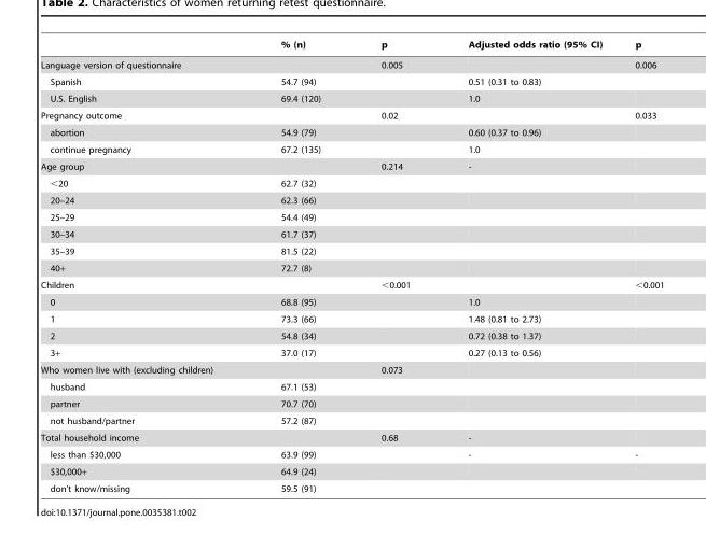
<table><thead><tr><td></td><td>% (n)</td><td>p</td><td>Adjusted odds ratio (95% CI)</td><td>p</td></tr></thead><tbody><tr><td>Language version of questionnaire</td><td></td><td>0.005</td><td></td><td>0.006</td></tr><tr><td>Spanish</td><td>54.7 (94)</td><td></td><td>0.51 (0.31 to 0.83)</td><td></td></tr><tr><td>U.S. English</td><td>69.4 (120)</td><td></td><td>1.0</td><td></td></tr><tr><td>Pregnancy outcome</td><td></td><td>0.02</td><td></td><td>0.033</td></tr><tr><td>abortion</td><td>54.9 (79)</td><td></td><td>0.60 (0.37 to 0.96)</td><td></td></tr><tr><td>continue pregnancy</td><td>67.2 (135)</td><td></td><td>1.0</td><td></td></tr><tr><td>Age group</td><td></td><td>0.214</td><td>-</td><td></td></tr><tr><td>&lt;20</td><td>62.7 (32)</td><td></td><td></td><td></td></tr><tr><td>20–24</td><td>62.3 (66)</td><td></td><td></td><td></td></tr><tr><td>25–29</td><td>54.4 (49)</td><td></td><td></td><td></td></tr><tr><td>30–34</td><td>61.7 (37)</td><td></td><td></td><td></td></tr><tr><td>35–39</td><td>81.5 (22)</td><td></td><td></td><td></td></tr><tr><td>40+</td><td>72.7 (8)</td><td></td><td></td><td></td></tr><tr><td>Children</td><td></td><td>&lt;0.001</td><td></td><td>&lt;0.001</td></tr><tr><td>0</td><td>68.8 (95)</td><td></td><td>1.0</td><td></td></tr><tr><td>1</td><td>73.3 (66)</td><td></td><td>1.48 (0.81 to 2.73)</td><td></td></tr><tr><td>2</td><td>54.8 (34)</td><td></td><td>0.72 (0.38 to 1.37)</td><td></td></tr><tr><td>3+</td><td>37.0 (17)</td><td></td><td>0.27 (0.13 to 0.56)</td><td></td></tr><tr><td>Who women live with (excluding children)</td><td></td><td>0.073</td><td></td><td></td></tr><tr><td>husband</td><td>67.1 (53)</td><td></td><td></td><td></td></tr><tr><td>partner</td><td>70.7 (70)</td><td></td><td></td><td></td></tr><tr><td>not husband/partner</td><td>57.2 (87)</td><td></td><td></td><td></td></tr><tr><td>Total household income</td><td></td><td>0.68</td><td>-</td><td></td></tr><tr><td>less than $30,000</td><td>63.9 (99)</td><td></td><td>-</td><td>-</td></tr><tr><td>$30,000+</td><td>64.9 (24)</td><td></td><td></td><td></td></tr><tr><td>don’t know/missing</td><td>59.5 (91)</td><td></td><td></td><td></td></tr></tbody></table>